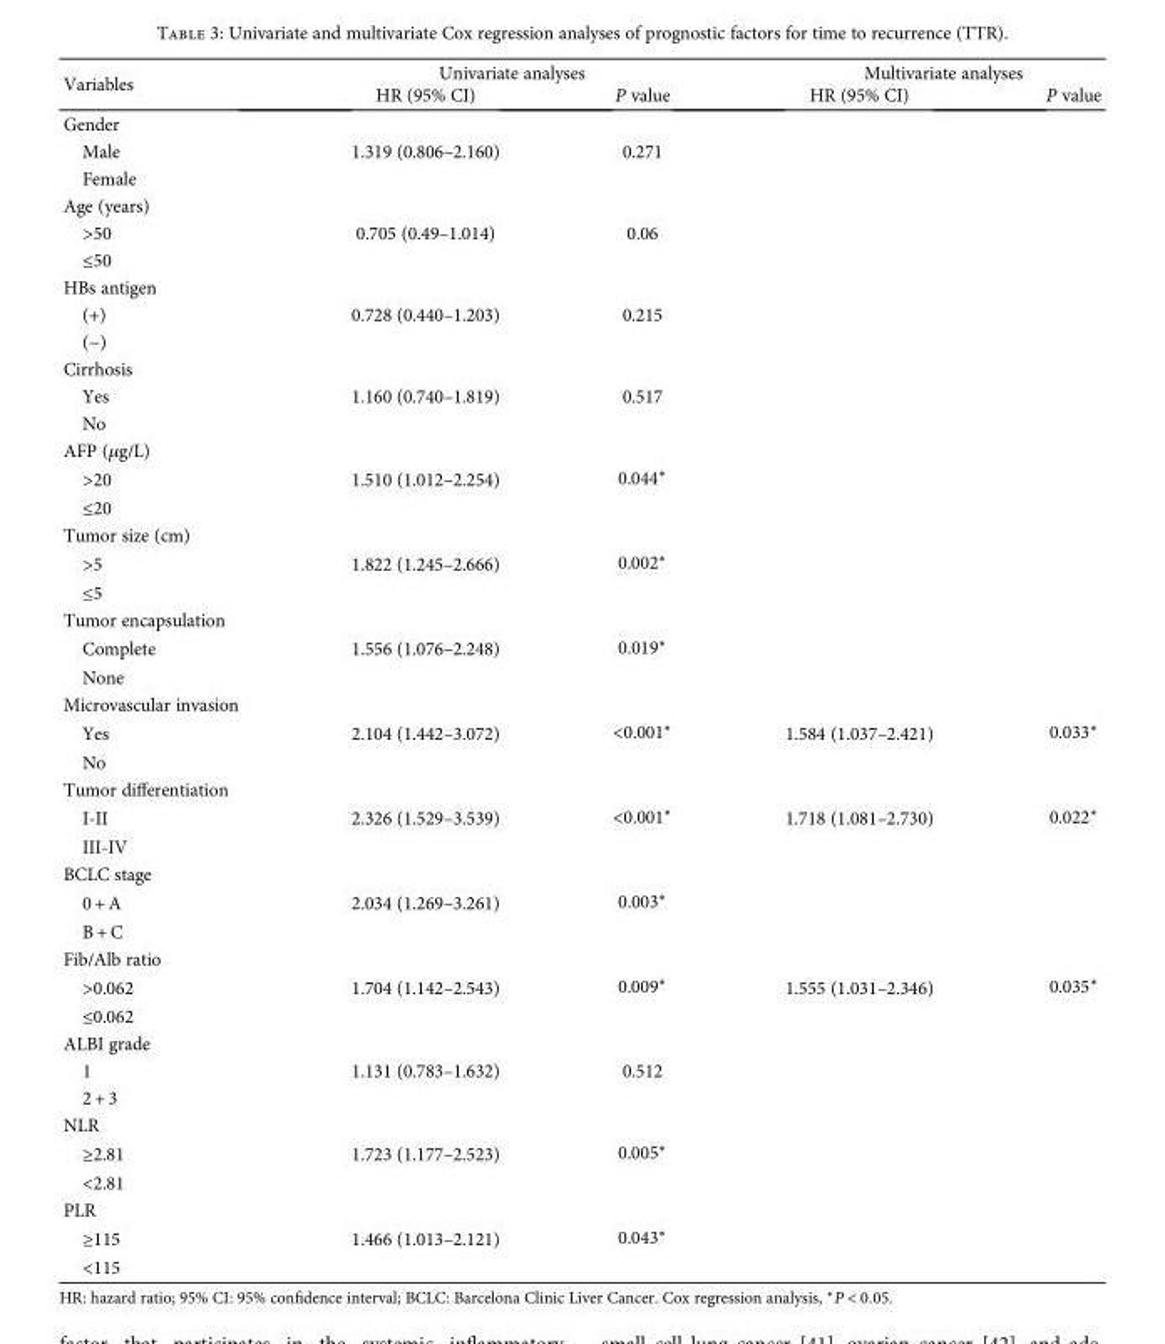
<table><thead><tr><td rowspan="2">Variables</td><td colspan="2">Univariate analyses</td><td colspan="2">Multivariate analyses</td></tr><tr><td>HR (95% CI)</td><td>P value</td><td>HR (95% CI)</td><td>P value</td></tr></thead><tbody><tr><td colspan="5">Gender</td></tr><tr><td>Male</td><td>1.319 (0.806–2.160)</td><td>0.271</td><td></td><td></td></tr><tr><td colspan="5">Female</td></tr><tr><td colspan="5">Age (years)</td></tr><tr><td>&gt;50</td><td>0.705 (0.49–1.014)</td><td>0.06</td><td></td><td></td></tr><tr><td colspan="5">≤50</td></tr><tr><td colspan="5">HBs antigen</td></tr><tr><td>(+)</td><td>0.728 (0.440–1.203)</td><td>0.215</td><td></td><td></td></tr><tr><td colspan="5">(−)</td></tr><tr><td colspan="5">Cirrhosis</td></tr><tr><td>Yes</td><td>1.160 (0.740–1.819)</td><td>0.517</td><td></td><td></td></tr><tr><td colspan="5">No</td></tr><tr><td colspan="5">AFP (μg/L)</td></tr><tr><td>&gt;20</td><td>1.510 (1.012–2.254)</td><td>0.044∗</td><td></td><td></td></tr><tr><td colspan="5">≤20</td></tr><tr><td colspan="5">Tumor size (cm)</td></tr><tr><td>&gt;5</td><td>1.822 (1.245–2.666)</td><td>0.002∗</td><td></td><td></td></tr><tr><td colspan="5">≤5</td></tr><tr><td colspan="5">Tumor encapsulation</td></tr><tr><td>Complete</td><td>1.556 (1.076–2.248)</td><td>0.019∗</td><td></td><td></td></tr><tr><td colspan="5">None</td></tr><tr><td colspan="5">Microvascular invasion</td></tr><tr><td>Yes</td><td>2.104 (1.442–3.072)</td><td>&lt;0.001∗</td><td>1.584 (1.037–2.421)</td><td>0.033∗</td></tr><tr><td colspan="5">No</td></tr><tr><td colspan="5">Tumor differentiation</td></tr><tr><td>I-II</td><td>2.326 (1.529–3.539)</td><td>&lt;0.001∗</td><td>1.718 (1.081–2.730)</td><td>0.022∗</td></tr><tr><td colspan="5">III-IV</td></tr><tr><td colspan="5">BCLC stage</td></tr><tr><td>0 + A</td><td>2.034 (1.269–3.261)</td><td>0.003∗</td><td></td><td></td></tr><tr><td colspan="5">B + C</td></tr><tr><td colspan="5">Fib/Alb ratio</td></tr><tr><td>&gt;0.062</td><td>1.704 (1.142–2.543)</td><td>0.009∗</td><td>1.555 (1.031–2.346)</td><td>0.035∗</td></tr><tr><td colspan="5">≤0.062</td></tr><tr><td colspan="5">ALBI grade</td></tr><tr><td>1</td><td>1.131 (0.783–1.632)</td><td>0.512</td><td></td><td></td></tr><tr><td colspan="5">2 + 3</td></tr><tr><td colspan="5">NLR</td></tr><tr><td>≥2.81</td><td>1.723 (1.177–2.523)</td><td>0.005∗</td><td></td><td></td></tr><tr><td colspan="5">&lt;2.81</td></tr><tr><td colspan="5">PLR</td></tr><tr><td>≥115</td><td>1.466 (1.013–2.121)</td><td>0.043∗</td><td></td><td></td></tr><tr><td>&lt;115</td><td></td><td></td><td></td><td></td></tr></tbody></table>